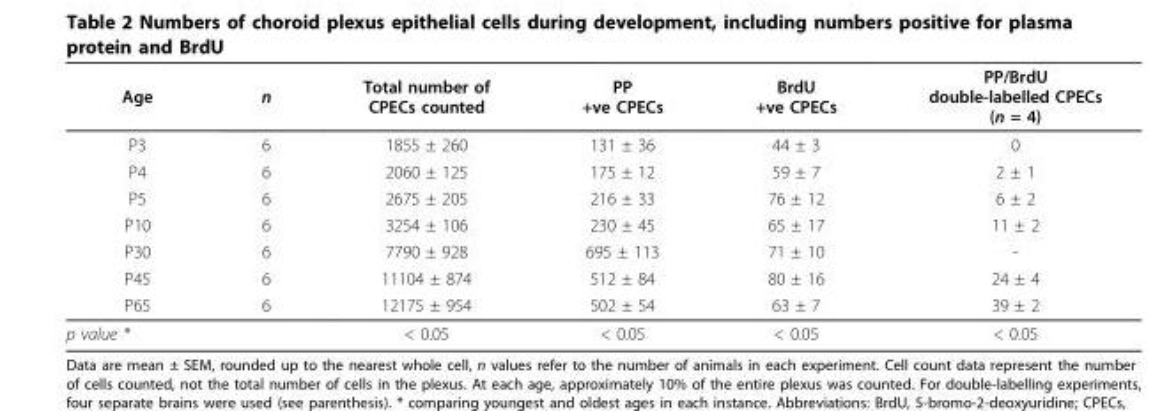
<table><thead><tr><td>Age</td><td>n</td><td>Total number of CPECs counted</td><td>PP +ve CPECs</td><td>BrdU +ve CPECs</td><td>PP/BrdU double-labelled CPECs (n = 4)</td></tr></thead><tbody><tr><td>P3</td><td>6</td><td>1855 ± 260</td><td>131 ± 36</td><td>44 ± 3</td><td>0</td></tr><tr><td>P4</td><td>6</td><td>2060 ± 125</td><td>175 ± 12</td><td>59 ± 7</td><td>2 ± 1</td></tr><tr><td>P5</td><td>6</td><td>2675 ± 205</td><td>216 ± 33</td><td>76 ± 12</td><td>6 ± 2</td></tr><tr><td>P10</td><td>6</td><td>3254 ± 106</td><td>230 ± 45</td><td>65 ± 17</td><td>11 ± 2</td></tr><tr><td>P30</td><td>6</td><td>7790 ± 928</td><td>695 ± 113</td><td>71 ± 10</td><td>-</td></tr><tr><td>P45</td><td>6</td><td>11104 ± 874</td><td>512 ± 84</td><td>80 ± 16</td><td>24 ± 4</td></tr><tr><td>P65</td><td>6</td><td>12175 ± 954</td><td>502 ± 54</td><td>63 ± 7</td><td>39 ± 2</td></tr><tr><td>p value *</td><td></td><td>&lt; 0.05</td><td>&lt; 0.05</td><td>&lt; 0.05</td><td>&lt; 0.05</td></tr></tbody></table>